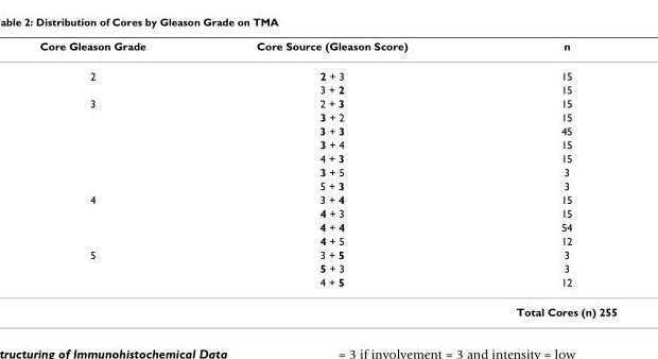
<table><thead><tr><td>Core Gleason Grade</td><td>Core Source (Gleason Score)</td><td>n</td></tr></thead><tbody><tr><td rowspan="2">2</td><td>2 + 3</td><td>15</td></tr><tr><td>3 + 2</td><td>15</td></tr><tr><td rowspan="7">3</td><td>2 + 3</td><td>15</td></tr><tr><td>3 + 2</td><td>15</td></tr><tr><td>3 + 3</td><td>45</td></tr><tr><td>3 + 4</td><td>15</td></tr><tr><td>4 + 3</td><td>15</td></tr><tr><td>3 + 5</td><td>3</td></tr><tr><td>5 + 3</td><td>3</td></tr><tr><td rowspan="4">4</td><td>3 + 4</td><td>15</td></tr><tr><td>4 + 3</td><td>15</td></tr><tr><td>4 + 4</td><td>54</td></tr><tr><td>4 + 5</td><td>12</td></tr><tr><td rowspan="4">5</td><td>3 + 5</td><td>3</td></tr><tr><td>5 + 3</td><td>3</td></tr><tr><td>4 + 5</td><td>12</td></tr><tr><td></td><td>Total Cores (n) 255</td></tr></tbody></table>